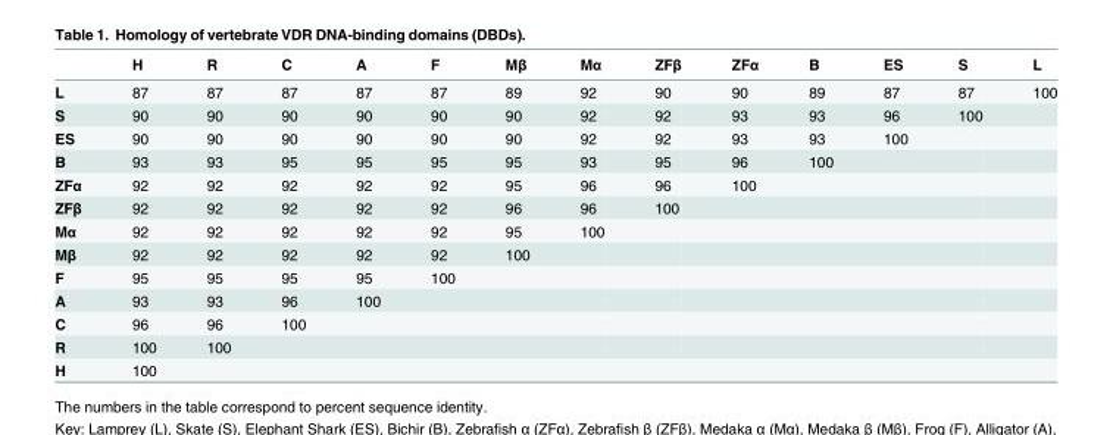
<table><thead><tr><td></td><td>H</td><td>R</td><td>C</td><td>A</td><td>F</td><td>Mβ</td><td>Mα</td><td>ZFβ</td><td>ZFα</td><td>B</td><td>ES</td><td>S</td><td>L</td></tr></thead><tbody><tr><td>L</td><td>87</td><td>87</td><td>87</td><td>87</td><td>87</td><td>89</td><td>92</td><td>90</td><td>90</td><td>89</td><td>87</td><td>87</td><td>100</td></tr><tr><td>S</td><td>90</td><td>90</td><td>90</td><td>90</td><td>90</td><td>90</td><td>92</td><td>92</td><td>93</td><td>93</td><td>96</td><td>100</td><td></td></tr><tr><td>ES</td><td>90</td><td>90</td><td>90</td><td>90</td><td>90</td><td>90</td><td>92</td><td>92</td><td>93</td><td>93</td><td>100</td><td></td><td></td></tr><tr><td>B</td><td>93</td><td>93</td><td>95</td><td>95</td><td>95</td><td>95</td><td>93</td><td>95</td><td>96</td><td>100</td><td></td><td></td><td></td></tr><tr><td>ZFα</td><td>92</td><td>92</td><td>92</td><td>92</td><td>92</td><td>95</td><td>96</td><td>96</td><td>100</td><td></td><td></td><td></td><td></td></tr><tr><td>ZFβ</td><td>92</td><td>92</td><td>92</td><td>92</td><td>92</td><td>96</td><td>96</td><td>100</td><td></td><td></td><td></td><td></td><td></td></tr><tr><td>Mα</td><td>92</td><td>92</td><td>92</td><td>92</td><td>92</td><td>95</td><td>100</td><td></td><td></td><td></td><td></td><td></td><td></td></tr><tr><td>Mβ</td><td>92</td><td>92</td><td>92</td><td>92</td><td>92</td><td>100</td><td></td><td></td><td></td><td></td><td></td><td></td><td></td></tr><tr><td>F</td><td>95</td><td>95</td><td>95</td><td>95</td><td>100</td><td></td><td></td><td></td><td></td><td></td><td></td><td></td><td></td></tr><tr><td>A</td><td>93</td><td>93</td><td>96</td><td>100</td><td></td><td></td><td></td><td></td><td></td><td></td><td></td><td></td><td></td></tr><tr><td>C</td><td>96</td><td>96</td><td>100</td><td></td><td></td><td></td><td></td><td></td><td></td><td></td><td></td><td></td><td></td></tr><tr><td>R</td><td>100</td><td>100</td><td></td><td></td><td></td><td></td><td></td><td></td><td></td><td></td><td></td><td></td><td></td></tr><tr><td>H</td><td>100</td><td></td><td></td><td></td><td></td><td></td><td></td><td></td><td></td><td></td><td></td><td></td><td></td></tr></tbody></table>